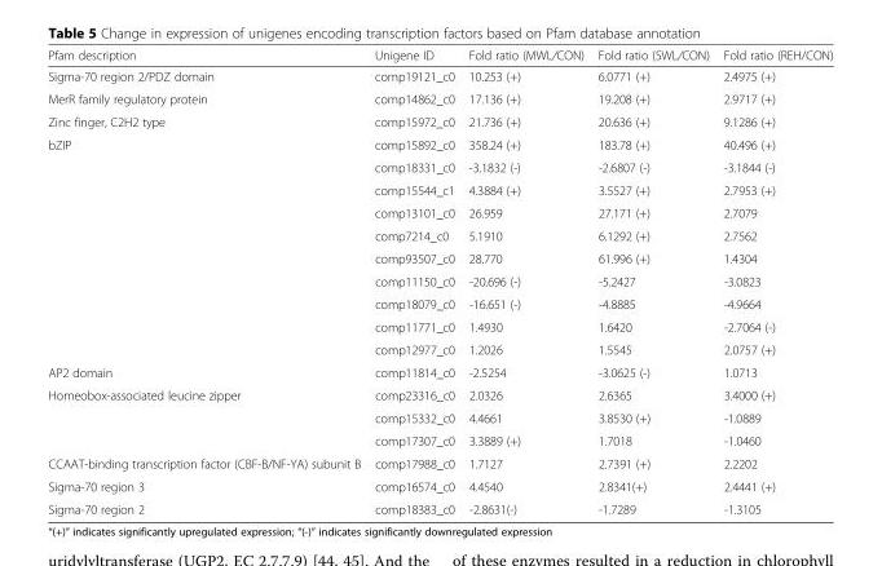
<table><thead><tr><td>Pfam description</td><td>Unigene ID</td><td>Fold ratio (MWL/CON)</td><td>Fold ratio (SWL/CON)</td><td>Fold ratio (REH/CON)</td></tr></thead><tbody><tr><td>Sigma-70 region 2/PDZ domain</td><td>comp19121_c0</td><td>10.253 (+)</td><td>6.0771 (+)</td><td>2.4975 (+)</td></tr><tr><td>MerR family regulatory protein</td><td>comp14862_c0</td><td>17.136 (+)</td><td>19.208 (+)</td><td>2.9717 (+)</td></tr><tr><td>Zinc finger, C2H2 type</td><td>comp15972_c0</td><td>21.736 (+)</td><td>20.636 (+)</td><td>9.1286 (+)</td></tr><tr><td rowspan="10">bZIP</td><td>comp15892_c0</td><td>358.24 (+)</td><td>183.78 (+)</td><td>40.496 (+)</td></tr><tr><td>comp18331_c0</td><td>-3.1832 (-)</td><td>-2.6807 (-)</td><td>-3.1844 (-)</td></tr><tr><td>comp15544_c1</td><td>4.3884 (+)</td><td>3.5527 (+)</td><td>2.7953 (+)</td></tr><tr><td>comp13101_c0</td><td>26.959</td><td>27.171 (+)</td><td>2.7079</td></tr><tr><td>comp7214_c0</td><td>5.1910</td><td>6.1292 (+)</td><td>2.7562</td></tr><tr><td>comp93507_c0</td><td>28.770</td><td>61.996 (+)</td><td>1.4304</td></tr><tr><td>comp11150_c0</td><td>-20.696 (-)</td><td>-5.2427</td><td>-3.0823</td></tr><tr><td>comp18079_c0</td><td>-16.651 (-)</td><td>-4.8885</td><td>-4.9664</td></tr><tr><td>comp11771_c0</td><td>1.4930</td><td>1.6420</td><td>-2.7064 (-)</td></tr><tr><td>comp12977_c0</td><td>1.2026</td><td>1.5545</td><td>2.0757 (+)</td></tr><tr><td>AP2 domain</td><td>comp11814_c0</td><td>-2.5254</td><td>-3.0625 (-)</td><td>1.0713</td></tr><tr><td rowspan="3">Homeobox-associated leucine zipper</td><td>comp23316_c0</td><td>2.0326</td><td>2.6365</td><td>3.4000 (+)</td></tr><tr><td>comp15332_c0</td><td>4.4661</td><td>3.8530 (+)</td><td>-1.0889</td></tr><tr><td>comp17307_c0</td><td>3.3889 (+)</td><td>1.7018</td><td>-1.0460</td></tr><tr><td>CCAAT-binding transcription factor (CBF-B/NF-YA) subunit B</td><td>comp17988_c0</td><td>1.7127</td><td>2.7391 (+)</td><td>2.2202</td></tr><tr><td>Sigma-70 region 3</td><td>comp16574_c0</td><td>4.4540</td><td>2.8341(+)</td><td>2.4441 (+)</td></tr><tr><td>Sigma-70 region 2</td><td>comp18383_c0</td><td>-2.8631(-)</td><td>-1.7289</td><td>-1.3105</td></tr></tbody></table>